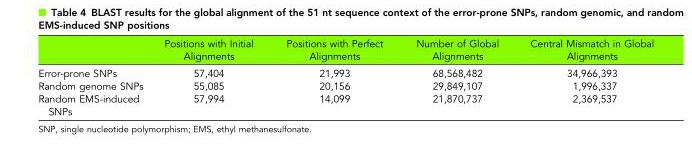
<table><thead><tr><td></td><td>Positions with Initial Alignments</td><td>Positions with Perfect Alignments</td><td>Number of Global Alignments</td><td>Central Mismatch in Global Alignments</td></tr></thead><tbody><tr><td>Error-prone SNPs</td><td>57,404</td><td>21,993</td><td>68,568,482</td><td>34,966,393</td></tr><tr><td>Random genome SNPs</td><td>55,085</td><td>20,156</td><td>29,849,107</td><td>1,996,337</td></tr><tr><td>Random EMS-induced SNPs</td><td>57,994</td><td>14,099</td><td>21,870,737</td><td>2,369,537</td></tr></tbody></table>